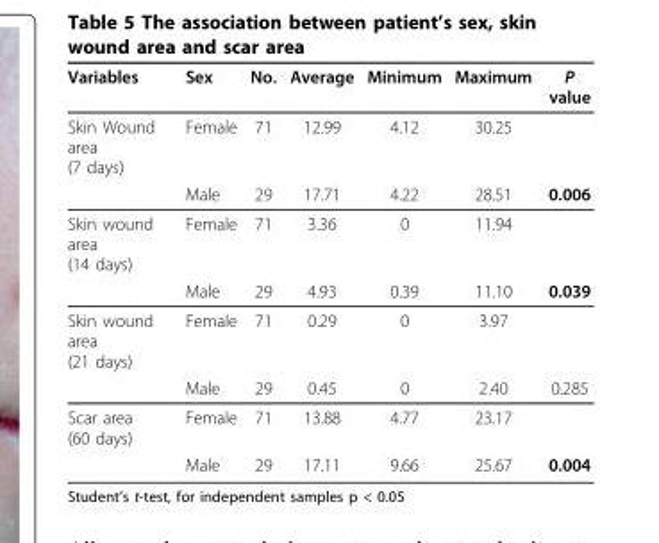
<table><thead><tr><td>Variables</td><td>Sex</td><td>No.</td><td>Average</td><td>Minimum</td><td>Maximum</td><td>P value</td></tr></thead><tbody><tr><td rowspan="2">Skin Wound area (7 days)</td><td>Female</td><td>71</td><td>12.99</td><td>4.12</td><td>30.25</td><td></td></tr><tr><td>Male</td><td>29</td><td>17.71</td><td>4.22</td><td>28.51</td><td>0.006</td></tr><tr><td rowspan="2">Skin wound area (14 days)</td><td>Female</td><td>71</td><td>3.36</td><td>0</td><td>11.94</td><td></td></tr><tr><td>Male</td><td>29</td><td>4.93</td><td>0.39</td><td>11.10</td><td>0.039</td></tr><tr><td rowspan="2">Skin wound area (21 days)</td><td>Female</td><td>71</td><td>0.29</td><td>0</td><td>3.97</td><td></td></tr><tr><td>Male</td><td>29</td><td>0.45</td><td>0</td><td>2.40</td><td>0.285</td></tr><tr><td rowspan="2">Scar area (60 days)</td><td>Female</td><td>71</td><td>13.88</td><td>4.77</td><td>23.17</td><td></td></tr><tr><td>Male</td><td>29</td><td>17.11</td><td>9.66</td><td>25.67</td><td>0.004</td></tr></tbody></table>